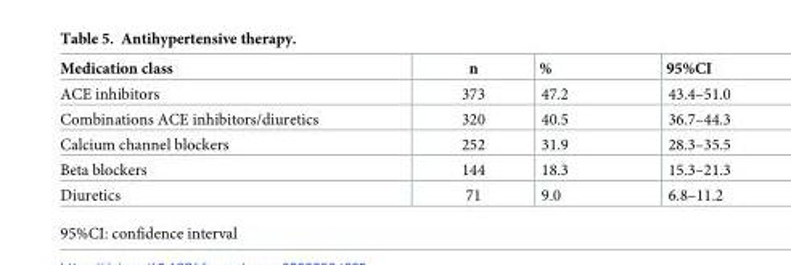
<table><thead><tr><td>Medication class</td><td>n</td><td>%</td><td>95%CI</td></tr></thead><tbody><tr><td>ACE inhibitors</td><td>373</td><td>47.2</td><td>43.4–51.0</td></tr><tr><td>Combinations ACE inhibitors/diuretics</td><td>320</td><td>40.5</td><td>36.7–44.3</td></tr><tr><td>Calcium channel blockers</td><td>252</td><td>31.9</td><td>28.3–35.5</td></tr><tr><td>Beta blockers</td><td>144</td><td>18.3</td><td>15.3–21.3</td></tr><tr><td>Diuretics</td><td>71</td><td>9.0</td><td>6.8–11.2</td></tr></tbody></table>